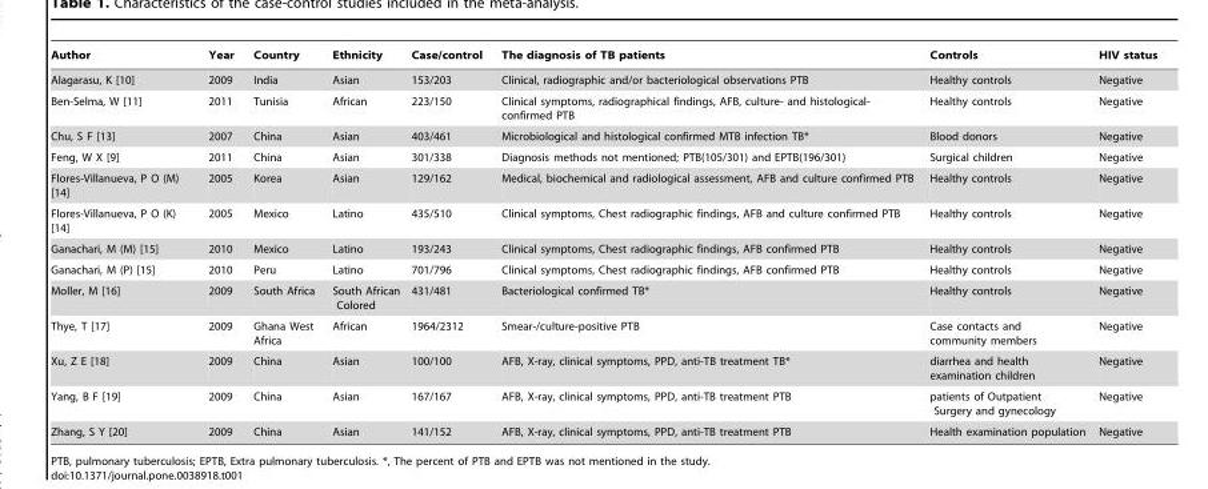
<table><thead><tr><td>Author</td><td>Year</td><td>Country</td><td>Ethnicity</td><td>Case/control</td><td>The diagnosis of TB patients</td><td>Controls</td><td>HIV status</td></tr></thead><tbody><tr><td>Alagarasu, K [10]</td><td>2009</td><td>India</td><td>Asian</td><td>153/203</td><td>Clinical, radiographic and/or bacteriological observations PTB</td><td>Healthy controls</td><td>Negative</td></tr><tr><td>Ben-Selma, W [11]</td><td>2011</td><td>Tunisia</td><td>African</td><td>223/150</td><td>Clinical symptoms, radiographical findings, AFB, culture- and histological- confirmed PTB</td><td>Healthy controls</td><td>Negative</td></tr><tr><td>Chu, S F [13]</td><td>2007</td><td>China</td><td>Asian</td><td>403/461</td><td>Microbiological and histological confirmed MTB infection TB*</td><td>Blood donors</td><td>Negative</td></tr><tr><td>Feng, W X [9]</td><td>2011</td><td>China</td><td>Asian</td><td>301/338</td><td>Diagnosis methods not mentioned; PTB(105/301) and EPTB(196/301)</td><td>Surgical children</td><td>Negative</td></tr><tr><td>Flores-Villanueva, P O (M) [14]</td><td>2005</td><td>Korea</td><td>Asian</td><td>129/162</td><td>Medical, biochemical and radiological assessment, AFB and culture confirmed PTB</td><td>Healthy controls</td><td>Negative</td></tr><tr><td>Flores-Villanueva, P O (K) [14]</td><td>2005</td><td>Mexico</td><td>Latino</td><td>435/510</td><td>Clinical symptoms, Chest radiographic findings, AFB and culture confirmed PTB</td><td>Healthy controls</td><td>Negative</td></tr><tr><td>Ganachari, M (M) [15]</td><td>2010</td><td>Mexico</td><td>Latino</td><td>193/243</td><td>Clinical symptoms, Chest radiographic findings, AFB confirmed PTB</td><td>Healthy controls</td><td>Negative</td></tr><tr><td>Ganachari, M (P) [15]</td><td>2010</td><td>Peru</td><td>Latino</td><td>701/796</td><td>Clinical symptoms, Chest radiographic findings, AFB confirmed PTB</td><td>Healthy controls</td><td>Negative</td></tr><tr><td>Moller, M [16]</td><td>2009</td><td>South Africa</td><td>South African Colored</td><td>431/481</td><td>Bacteriological confirmed TB*</td><td>Healthy controls</td><td>Negative</td></tr><tr><td>Thye, T [17]</td><td>2009</td><td>Ghana West Africa</td><td>African</td><td>1964/2312</td><td>Smear-/culture-positive PTB</td><td>Case contacts and community members</td><td>Negative</td></tr><tr><td>Xu, Z E [18]</td><td>2009</td><td>China</td><td>Asian</td><td>100/100</td><td>AFB, X-ray, clinical symptoms, PPD, anti-TB treatment TB*</td><td>diarrhea and health examination children</td><td>Negative</td></tr><tr><td>Yang, B F [19]</td><td>2009</td><td>China</td><td>Asian</td><td>167/167</td><td>AFB, X-ray, clinical symptoms, PPD, anti-TB treatment PTB</td><td>patients of Outpatient Surgery and gynecology</td><td>Negative</td></tr><tr><td>Zhang, S Y [20]</td><td>2009</td><td>China</td><td>Asian</td><td>141/152</td><td>AFB, X-ray, clinical symptoms, PPD, anti-TB treatment PTB</td><td>Health examination population</td><td>Negative</td></tr></tbody></table>